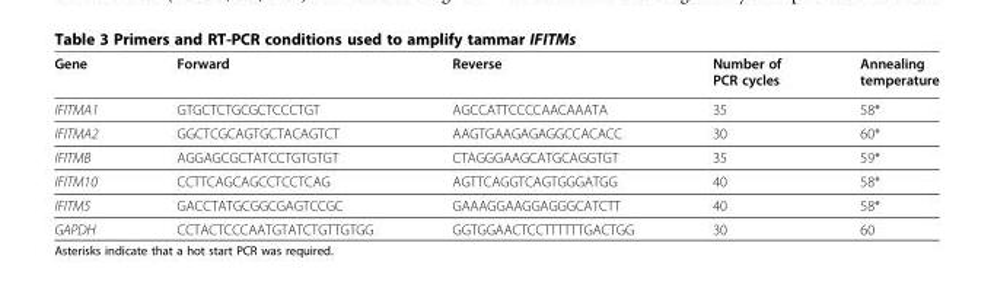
<table><thead><tr><td>Gene</td><td>Forward</td><td>Reverse</td><td>Number of PCR cycles</td><td>Annealing temperature</td></tr></thead><tbody><tr><td>IFITMA1</td><td>GTGCTCTGCGCTCCCTGT</td><td>AGCCATTCCCCAACAAATA</td><td>35</td><td>58*</td></tr><tr><td>IFITMA2</td><td>GGCTCGCAGTGCTACAGTCT</td><td>AAGTGAAGAGAGGCCACACC</td><td>30</td><td>60*</td></tr><tr><td>IFITMB</td><td>AGGAGCGCTATCCTGTGTGT</td><td>CTAGGGAAGCATGCAGGTGT</td><td>35</td><td>59*</td></tr><tr><td>IFITM10</td><td>CCTTCAGCAGCCTCCTCAG</td><td>AGTTCAGGTCAGTGGGATGG</td><td>40</td><td>58*</td></tr><tr><td>IFITM5</td><td>GACCTATGCGGCGAGTCCGC</td><td>GAAAGGAAGGAGGGCATCTT</td><td>40</td><td>58*</td></tr><tr><td>GAPDH</td><td>CCTACTCCCAATGTATCTGTTGTGG</td><td>GGTGGAACTCCTTTTTTGACTGG</td><td>30</td><td>60</td></tr></tbody></table>